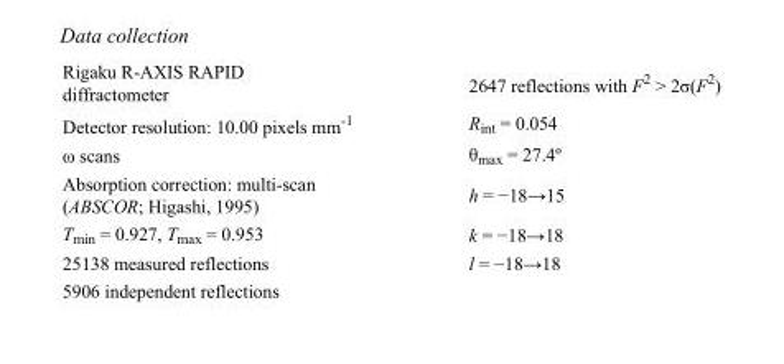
<table><tbody><tr><td>Rigaku R-AXIS RAPID diffractometer</td><td>2647 reflections with F<sup>2</sup> &gt; 2σ(F<sup>2</sup>)</td></tr><tr><td>Detector resolution: 10.00 pixels mm<sup>-1</sup></td><td>R<sub>int</sub> = 0.054</td></tr><tr><td>ω scans</td><td>θmax = 27.4º</td></tr><tr><td>Absorption correction: multi-scan (ABSCOR; Higashi, 1995)</td><td>h = −18→15</td></tr><tr><td>T<sub>min</sub> = 0.927, T<sub>max</sub> = 0.953</td><td>k = −18→18</td></tr><tr><td>25138 measured reflections</td><td>l = −18→18</td></tr><tr><td>5906 independent reflections</td><td></td></tr></tbody></table>